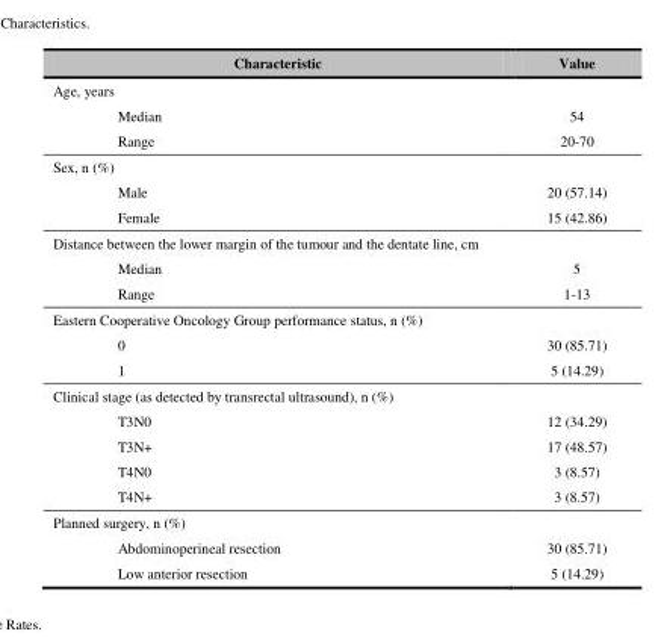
<table><thead><tr><td>Characteristic</td><td>Value</td></tr></thead><tbody><tr><td colspan="2">Age, years</td></tr><tr><td>Median</td><td>54</td></tr><tr><td>Range</td><td>20-70</td></tr><tr><td colspan="2">Sex, n (%)</td></tr><tr><td>Male</td><td>20 (57.14)</td></tr><tr><td>Female</td><td>15 (42.86)</td></tr><tr><td colspan="2">Distance between the lower margin of the tumour and the dentate line, cm</td></tr><tr><td>Median</td><td>5</td></tr><tr><td>Range</td><td>1-13</td></tr><tr><td colspan="2">Eastern Cooperative Oncology Group performance status, n (%)</td></tr><tr><td>0</td><td>30 (85.71)</td></tr><tr><td>1</td><td>5 (14.29)</td></tr><tr><td colspan="2">Clinical stage (as detected by transrectal ultrasound), n (%)</td></tr><tr><td>T3N0</td><td>12 (34.29)</td></tr><tr><td>T3N+</td><td>17 (48.57)</td></tr><tr><td>T4N0</td><td>3 (8.57)</td></tr><tr><td>T4N+</td><td>3 (8.57)</td></tr><tr><td colspan="2">Planned surgery, n (%)</td></tr><tr><td>Abdominoperineal resection</td><td>30 (85.71)</td></tr><tr><td>Low anterior resection</td><td>5 (14.29)</td></tr></tbody></table>